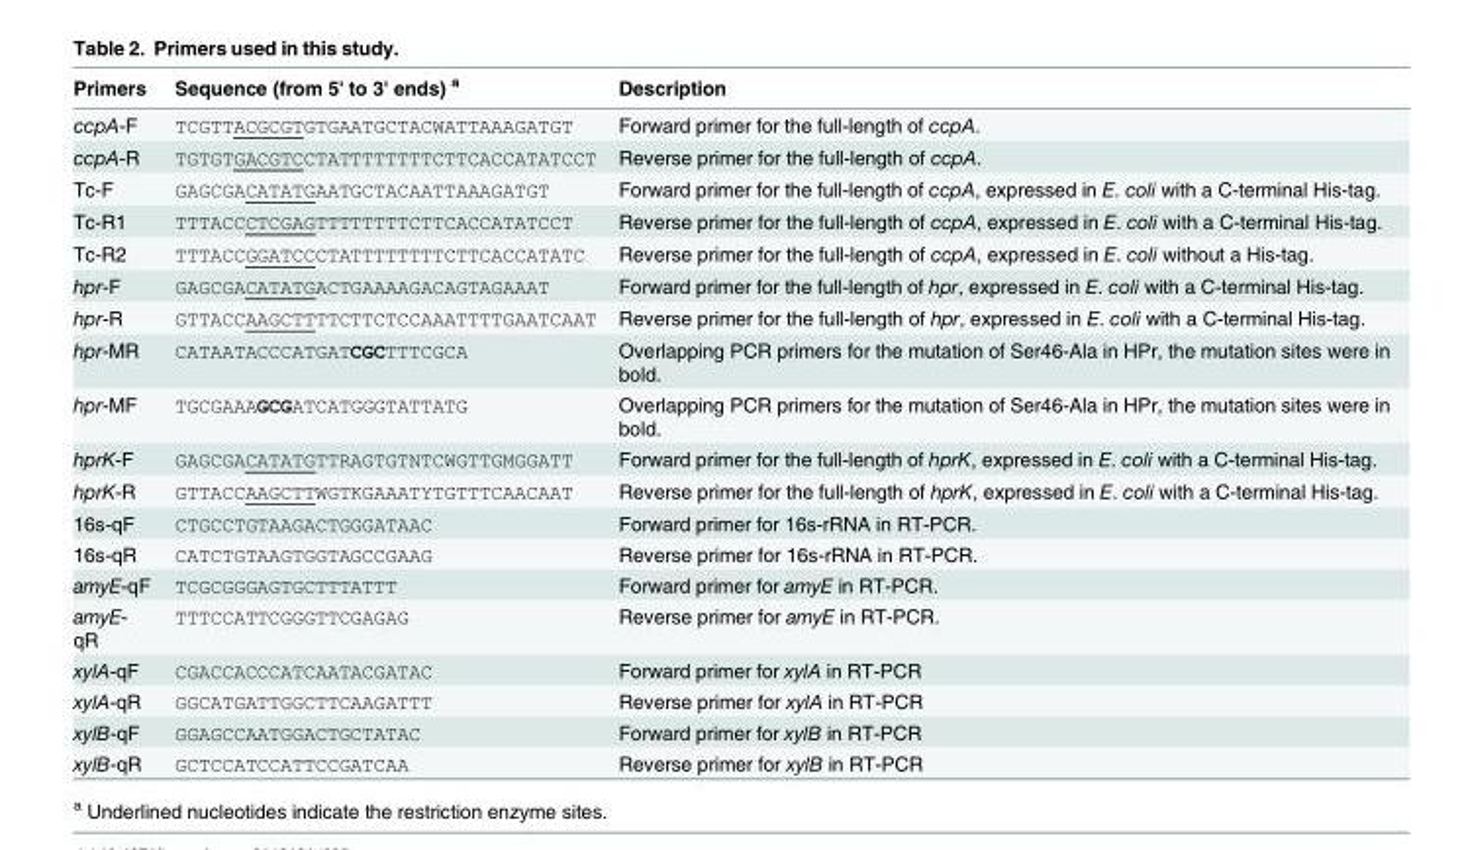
<table><thead><tr><td>Primers</td><td>Sequence (from 5&#x27; to 3&#x27; ends) <sup>a</sup></td><td>Description</td></tr></thead><tbody><tr><td>ccpA-F</td><td>TCGTTACGCGTGTGAATGCTACWATTAAAGATGT</td><td>Forward primer for the full-length of ccpA.</td></tr><tr><td>ccpA-R</td><td>TGTGTGACGTCCTATTTTTTTTCTTCACCATATCCT</td><td>Reverse primer for the full-length of ccpA.</td></tr><tr><td>Tc-F</td><td>GAGCGACATATGAATGCTACAATTAAAGATGT</td><td>Forward primer for the full-length of ccpA, expressed in E. coli with a C-terminal His-tag.</td></tr><tr><td>Tc-R1</td><td>TTTACCCTCGAGTTTTTTTTCTTCACCATATCCT</td><td>Reverse primer for the full-length of ccpA, expressed in E. coli with a C-terminal His-tag.</td></tr><tr><td>Tc-R2</td><td>TTTACCGGATCCCTATTTTTTTTCTTCACCATATC</td><td>Reverse primer for the full-length of ccpA, expressed in E. coli without a His-tag.</td></tr><tr><td>hpr-F</td><td>GAGCGACATATGACTGAAAAGACAGTAGAAAT</td><td>Forward primer for the full-length of hpr, expressed in E. coli with a C-terminal His-tag.</td></tr><tr><td>hpr-R</td><td>GTTACCAAGCTTTTCTTCTCCAAATTTTGAATCAAT</td><td>Reverse primer for the full-length of hpr, expressed in E. coli with a C-terminal His-tag.</td></tr><tr><td>hpr-MR</td><td>CATAATACCCATGATCGCTTTCGCA</td><td>Overlapping PCR primers for the mutation of Ser46-Ala in HPr, the mutation sites were in bold.</td></tr><tr><td>hpr-MF</td><td>TGCGAAAGCGATCATGGGTATTATG</td><td>Overlapping PCR primers for the mutation of Ser46-Ala in HPr, the mutation sites were in bold.</td></tr><tr><td>hprK-F</td><td>GAGCGACATATGTTRAGTGTNTCWGTTGMGGATT</td><td>Forward primer for the full-length of hprK, expressed in E. coli with a C-terminal His-tag.</td></tr><tr><td>hprK-R</td><td>GTTACCAAGCTTWGTKGAAATYTGTTTCAACAAT</td><td>Reverse primer for the full-length of hprK, expressed in E. coli with a C-terminal His-tag.</td></tr><tr><td>16s-qF</td><td>CTGCCTGTAAGACTGGGATAAC</td><td>Forward primer for 16s-rRNA in RT-PCR.</td></tr><tr><td>16s-qR</td><td>CATCTGTAAGTGGTAGCCGAAG</td><td>Reverse primer for 16s-rRNA in RT-PCR.</td></tr><tr><td>amyE-qF</td><td>TCGCGGGAGTGCTTTATTT</td><td>Forward primer for amyE in RT-PCR.</td></tr><tr><td>amyE- qR</td><td>TTTCCATTCGGGTTCGAGAG</td><td>Reverse primer for amyE in RT-PCR.</td></tr><tr><td>xylA-qF</td><td>CGACCACCCATCAATACGATAC</td><td>Forward primer for xylA in RT-PCR</td></tr><tr><td>xylA-qR</td><td>GGCATGATTGGCTTCAAGATTT</td><td>Reverse primer for xylA in RT-PCR</td></tr><tr><td>xylB-qF</td><td>GGAGCCAATGGACTGCTATAC</td><td>Forward primer for xylB in RT-PCR</td></tr><tr><td>xylB-qR</td><td>GCTCCATCCATTCCGATCAA</td><td>Reverse primer for xylB in RT-PCR</td></tr></tbody></table>